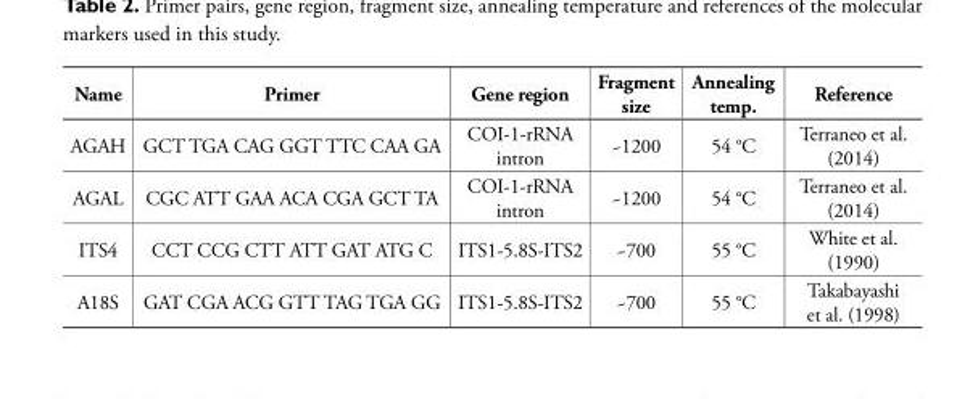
<table><thead><tr><td>Name</td><td>Primer</td><td>Gene region</td><td>Fragment size</td><td>Annealing temp.</td><td>Reference</td></tr></thead><tbody><tr><td>AGAH</td><td>GCT TGA CAG GGT TTC CAA GA</td><td>COI-1-rRNA intron</td><td>~1200</td><td>54 °C</td><td>Terraneo et al. (2014)</td></tr><tr><td>AGAL</td><td>CGC ATT GAA ACA CGA GCT TA</td><td>COI-1-rRNA intron</td><td>~1200</td><td>54 °C</td><td>Terraneo et al. (2014)</td></tr><tr><td>ITS4</td><td>CCT CCG CTT ATT GAT ATG C</td><td>ITS1-5.8S-ITS2</td><td>~700</td><td>55 °C</td><td>White et al. (1990)</td></tr><tr><td>A18S</td><td>GAT CGA ACG GTT TAG TGA GG</td><td>ITS1-5.8S-ITS2</td><td>~700</td><td>55 °C</td><td>Takabayashi et al. (1998)</td></tr></tbody></table>